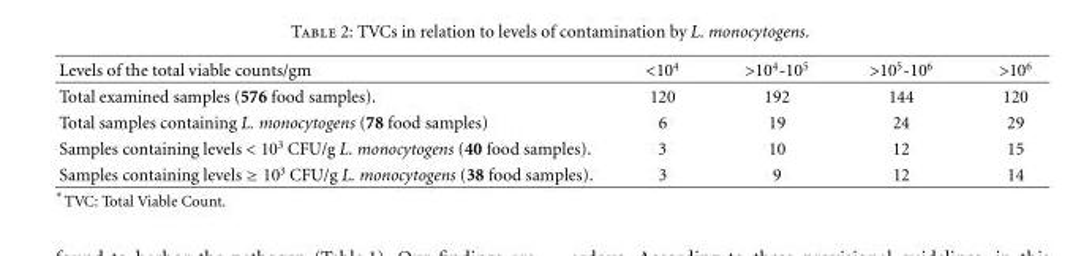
<table><thead><tr><td>Levels of the total viable counts/gm</td><td>&lt;10<sup>4</sup></td><td>&gt;10<sup>4</sup>-10<sup>5</sup></td><td>&gt;10<sup>5</sup>-10<sup>6</sup></td><td>&gt;10<sup>6</sup></td></tr></thead><tbody><tr><td>Total examined samples (576 food samples).</td><td>120</td><td>192</td><td>144</td><td>120</td></tr><tr><td>Total samples containing L. monocytogens (78 food samples)</td><td>6</td><td>19</td><td>24</td><td>29</td></tr><tr><td>Samples containing levels &lt; 10<sup>3</sup> CFU/g L. monocytogens (40 food samples).</td><td>3</td><td>10</td><td>12</td><td>15</td></tr><tr><td>Samples containing levels ≥ 10<sup>3</sup> CFU/g L. monocytogens (38 food samples).</td><td>3</td><td>9</td><td>12</td><td>14</td></tr></tbody></table>